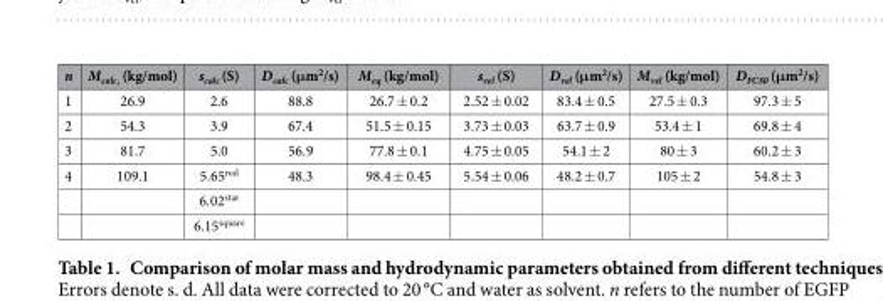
<table><thead><tr><td>n</td><td>M<sub>calc,</sub> (kg/mol)</td><td>s<sub>calc</sub> (S)</td><td>D<sub>calc</sub> (μm<sup>2</sup>/s)</td><td>M<sub>eq</sub> (kg/mol)</td><td>s<sub>vel</sub> (S)</td><td>D<sub>vel</sub> (μm<sup>2</sup>/s)</td><td>M<sub>vel</sub> (kg/mol)</td><td>D<sub>FCS0</sub> (μm<sup>2</sup>/s)</td></tr></thead><tbody><tr><td>1</td><td>26.9</td><td>2.6</td><td>88.8</td><td>26.7 ± 0.2</td><td>2.52 ± 0.02</td><td>83.4 ± 0.5</td><td>27.5 ± 0.3</td><td>97.3 ± 5</td></tr><tr><td>2</td><td>54.3</td><td>3.9</td><td>67.4</td><td>51.5 ± 0.15</td><td>3.73 ± 0.03</td><td>63.7 ± 0.9</td><td>53.4 ± 1</td><td>69.8 ± 4</td></tr><tr><td>3</td><td>81.7</td><td>5.0</td><td>56.9</td><td>77.8 ± 0.1</td><td>4.75 ± 0.05</td><td>54.1 ± 2</td><td>80 ± 3</td><td>60.2 ± 3</td></tr><tr><td rowspan="3">4</td><td>109.1</td><td>5.65<sup>rod</sup></td><td>48.3</td><td>98.4 ± 0.45</td><td>5.54 ± 0.06</td><td>48.2 ± 0.7</td><td>105 ± 2</td><td>54.8 ± 3</td></tr><tr><td></td><td>6.02<sup>star</sup></td><td></td><td></td><td></td><td></td><td></td><td></td></tr><tr><td></td><td>6.15<sup>square</sup></td><td></td><td></td><td></td><td></td><td></td><td></td></tr></tbody></table>